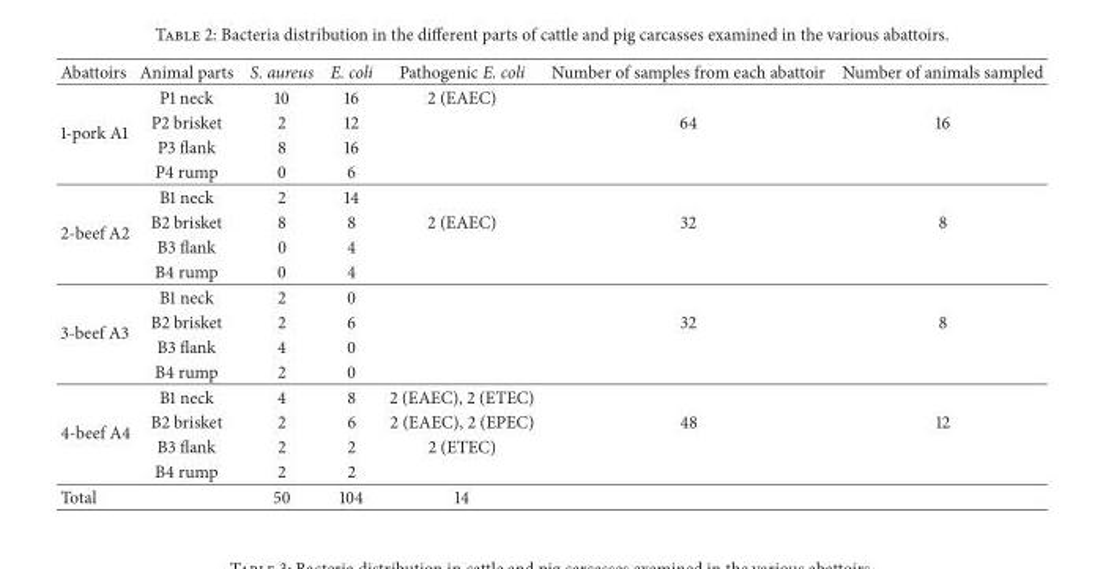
<table><thead><tr><td>Abattoirs</td><td>Animal parts</td><td>S. aureus</td><td>E. coli</td><td>Pathogenic E. coli</td><td>Number of samples from each abattoir</td><td>Number of animals sampled</td></tr></thead><tbody><tr><td rowspan="4">1-pork A1</td><td>P1 neck</td><td>10</td><td>16</td><td>2 (EAEC)</td><td></td><td></td></tr><tr><td>P2 brisket</td><td>2</td><td>12</td><td></td><td>64</td><td>16</td></tr><tr><td>P3 flank</td><td>8</td><td>16</td><td></td><td></td><td></td></tr><tr><td>P4 rump</td><td>0</td><td>6</td><td></td><td></td><td></td></tr><tr><td rowspan="4">2-beef A2</td><td>B1 neck</td><td>2</td><td>14</td><td></td><td></td><td></td></tr><tr><td>B2 brisket</td><td>8</td><td>8</td><td>2 (EAEC)</td><td>32</td><td>8</td></tr><tr><td>B3 flank</td><td>0</td><td>4</td><td></td><td></td><td></td></tr><tr><td>B4 rump</td><td>0</td><td>4</td><td></td><td></td><td></td></tr><tr><td rowspan="4">3-beef A3</td><td>B1 neck</td><td>2</td><td>0</td><td></td><td></td><td></td></tr><tr><td>B2 brisket</td><td>2</td><td>6</td><td></td><td>32</td><td>8</td></tr><tr><td>B3 flank</td><td>4</td><td>0</td><td></td><td></td><td></td></tr><tr><td>B4 rump</td><td>2</td><td>0</td><td></td><td></td><td></td></tr><tr><td rowspan="4">4-beef A4</td><td>B1 neck</td><td>4</td><td>8</td><td>2 (EAEC), 2 (ETEC)</td><td></td><td></td></tr><tr><td>B2 brisket</td><td>2</td><td>6</td><td>2 (EAEC), 2 (EPEC)</td><td>48</td><td>12</td></tr><tr><td>B3 flank</td><td>2</td><td>2</td><td>2 (ETEC)</td><td></td><td></td></tr><tr><td>B4 rump</td><td>2</td><td>2</td><td></td><td></td><td></td></tr><tr><td>Total</td><td></td><td>50</td><td>104</td><td>14</td><td></td><td></td></tr></tbody></table>